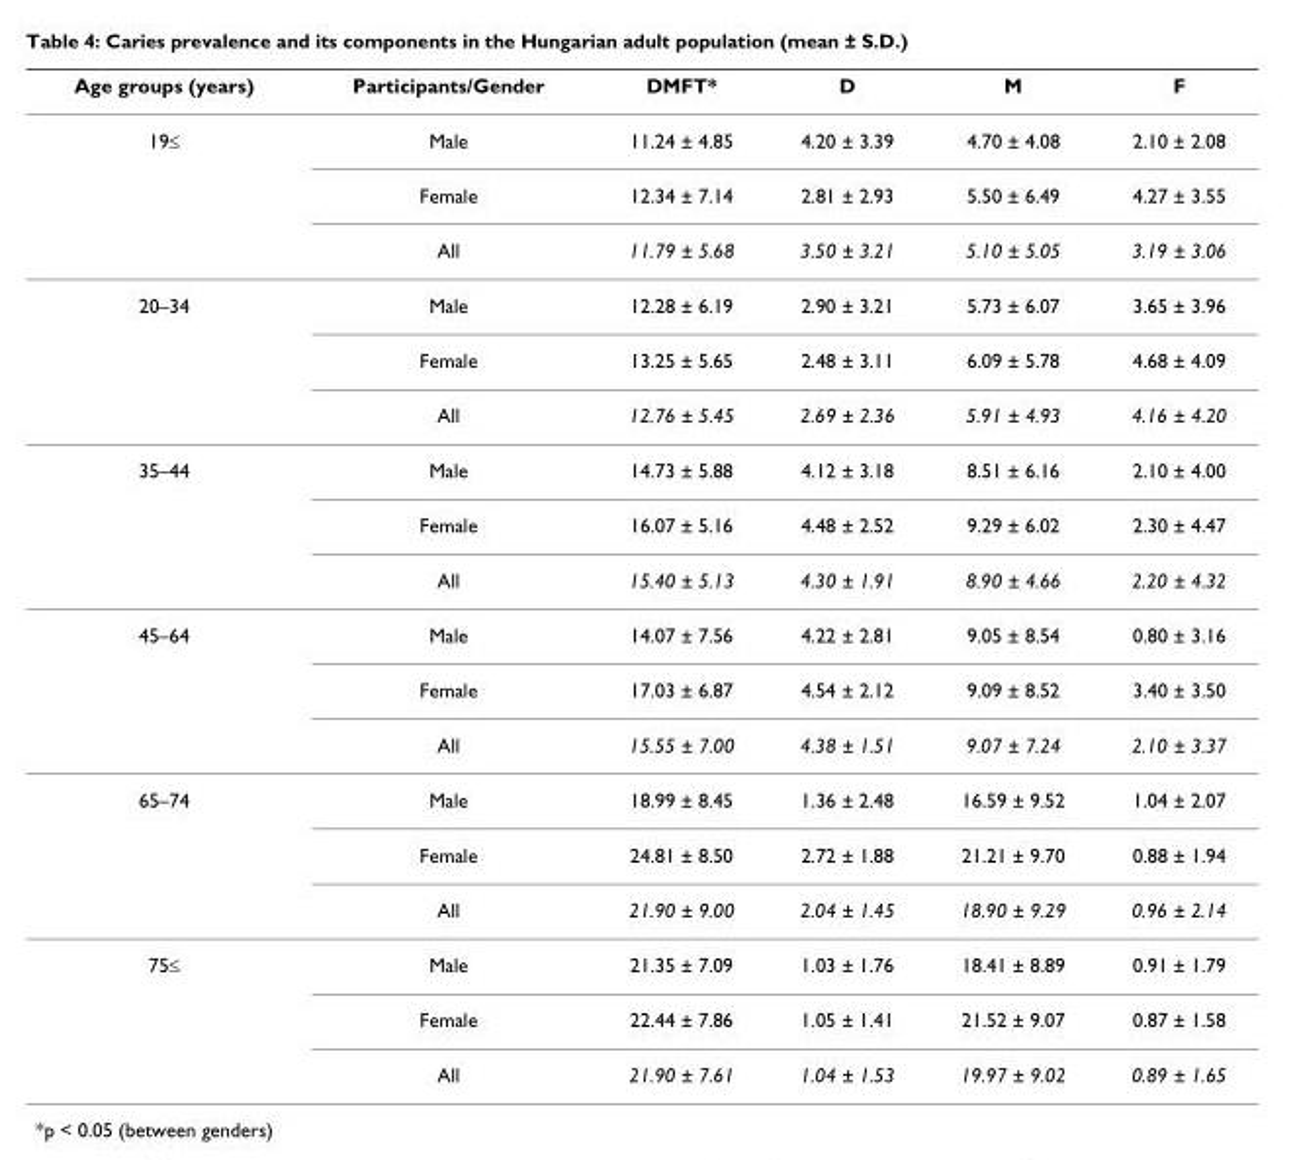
<table><thead><tr><td>Age groups (years)</td><td>Participants/Gender</td><td>DMFT*</td><td>D</td><td>M</td><td>F</td></tr></thead><tbody><tr><td rowspan="3">19≤</td><td>Male</td><td>11.24 ± 4.85</td><td>4.20 ± 3.39</td><td>4.70 ± 4.08</td><td>2.10 ± 2.08</td></tr><tr><td>Female</td><td>12.34 ± 7.14</td><td>2.81 ± 2.93</td><td>5.50 ± 6.49</td><td>4.27 ± 3.55</td></tr><tr><td>All</td><td>11.79 ± 5.68</td><td>3.50 ± 3.21</td><td>5.10 ± 5.05</td><td>3.19 ± 3.06</td></tr><tr><td rowspan="3">20–34</td><td>Male</td><td>12.28 ± 6.19</td><td>2.90 ± 3.21</td><td>5.73 ± 6.07</td><td>3.65 ± 3.96</td></tr><tr><td>Female</td><td>13.25 ± 5.65</td><td>2.48 ± 3.11</td><td>6.09 ± 5.78</td><td>4.68 ± 4.09</td></tr><tr><td>All</td><td>12.76 ± 5.45</td><td>2.69 ± 2.36</td><td>5.91 ± 4.93</td><td>4.16 ± 4.20</td></tr><tr><td rowspan="3">35–44</td><td>Male</td><td>14.73 ± 5.88</td><td>4.12 ± 3.18</td><td>8.51 ± 6.16</td><td>2.10 ± 4.00</td></tr><tr><td>Female</td><td>16.07 ± 5.16</td><td>4.48 ± 2.52</td><td>9.29 ± 6.02</td><td>2.30 ± 4.47</td></tr><tr><td>All</td><td>15.40 ± 5.13</td><td>4.30 ± 1.91</td><td>8.90 ± 4.66</td><td>2.20 ± 4.32</td></tr><tr><td rowspan="3">45–64</td><td>Male</td><td>14.07 ± 7.56</td><td>4.22 ± 2.81</td><td>9.05 ± 8.54</td><td>0.80 ± 3.16</td></tr><tr><td>Female</td><td>17.03 ± 6.87</td><td>4.54 ± 2.12</td><td>9.09 ± 8.52</td><td>3.40 ± 3.50</td></tr><tr><td>All</td><td>15.55 ± 7.00</td><td>4.38 ± 1.51</td><td>9.07 ± 7.24</td><td>2.10 ± 3.37</td></tr><tr><td rowspan="3">65–74</td><td>Male</td><td>18.99 ± 8.45</td><td>1.36 ± 2.48</td><td>16.59 ± 9.52</td><td>1.04 ± 2.07</td></tr><tr><td>Female</td><td>24.81 ± 8.50</td><td>2.72 ± 1.88</td><td>21.21 ± 9.70</td><td>0.88 ± 1.94</td></tr><tr><td>All</td><td>21.90 ± 9.00</td><td>2.04 ± 1.45</td><td>18.90 ± 9.29</td><td>0.96 ± 2.14</td></tr><tr><td rowspan="3">75≤</td><td>Male</td><td>21.35 ± 7.09</td><td>1.03 ± 1.76</td><td>18.41 ± 8.89</td><td>0.91 ± 1.79</td></tr><tr><td>Female</td><td>22.44 ± 7.86</td><td>1.05 ± 1.41</td><td>21.52 ± 9.07</td><td>0.87 ± 1.58</td></tr><tr><td>All</td><td>21.90 ± 7.61</td><td>1.04 ± 1.53</td><td>19.97 ± 9.02</td><td>0.89 ± 1.65</td></tr></tbody></table>